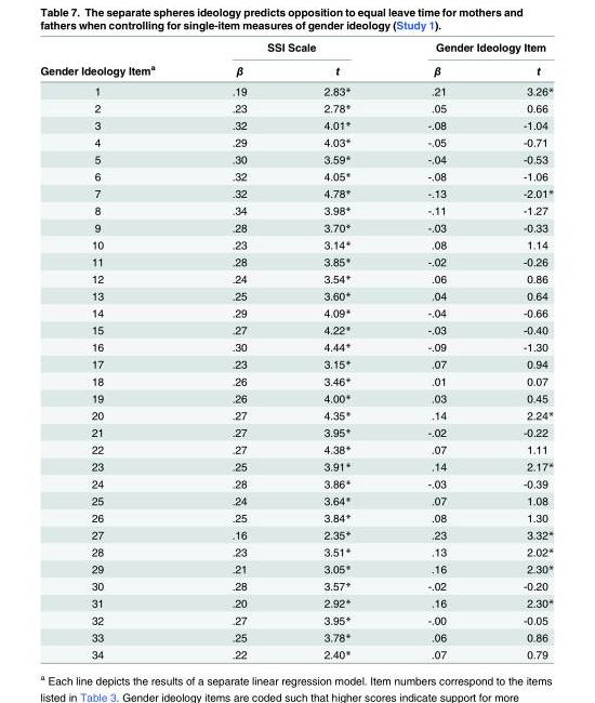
<table><thead><tr><td rowspan="2">Gender Ideology Item<sup>a</sup></td><td colspan="2">SSI Scale</td><td colspan="2">Gender Ideology Item</td></tr><tr><td>β</td><td>t</td><td>β</td><td>t</td></tr></thead><tbody><tr><td>1</td><td>.19</td><td>2.83*</td><td>.21</td><td>3.26*</td></tr><tr><td>2</td><td>.23</td><td>2.78*</td><td>.05</td><td>0.66</td></tr><tr><td>3</td><td>.32</td><td>4.01*</td><td>-.08</td><td>-1.04</td></tr><tr><td>4</td><td>.29</td><td>4.03*</td><td>-.05</td><td>-0.71</td></tr><tr><td>5</td><td>.30</td><td>3.59*</td><td>-.04</td><td>-0.53</td></tr><tr><td>6</td><td>.32</td><td>4.05*</td><td>-.08</td><td>-1.06</td></tr><tr><td>7</td><td>.32</td><td>4.78*</td><td>-.13</td><td>-2.01*</td></tr><tr><td>8</td><td>.34</td><td>3.98*</td><td>-.11</td><td>-1.27</td></tr><tr><td>9</td><td>.28</td><td>3.70*</td><td>-.03</td><td>-0.33</td></tr><tr><td>10</td><td>.23</td><td>3.14*</td><td>.08</td><td>1.14</td></tr><tr><td>11</td><td>.28</td><td>3.85*</td><td>-.02</td><td>-0.26</td></tr><tr><td>12</td><td>.24</td><td>3.54*</td><td>.06</td><td>0.86</td></tr><tr><td>13</td><td>.25</td><td>3.60*</td><td>.04</td><td>0.64</td></tr><tr><td>14</td><td>.29</td><td>4.09*</td><td>-.04</td><td>-0.66</td></tr><tr><td>15</td><td>.27</td><td>4.22*</td><td>-.03</td><td>-0.40</td></tr><tr><td>16</td><td>.30</td><td>4.44*</td><td>-.09</td><td>-1.30</td></tr><tr><td>17</td><td>.23</td><td>3.15*</td><td>.07</td><td>0.94</td></tr><tr><td>18</td><td>.26</td><td>3.46*</td><td>.01</td><td>0.07</td></tr><tr><td>19</td><td>.26</td><td>4.00*</td><td>.03</td><td>0.45</td></tr><tr><td>20</td><td>.27</td><td>4.35*</td><td>.14</td><td>2.24*</td></tr><tr><td>21</td><td>.27</td><td>3.95*</td><td>-.02</td><td>-0.22</td></tr><tr><td>22</td><td>.27</td><td>4.38*</td><td>.07</td><td>1.11</td></tr><tr><td>23</td><td>.25</td><td>3.91*</td><td>.14</td><td>2.17*</td></tr><tr><td>24</td><td>.28</td><td>3.86*</td><td>-.03</td><td>-0.39</td></tr><tr><td>25</td><td>.24</td><td>3.64*</td><td>.07</td><td>1.08</td></tr><tr><td>26</td><td>.25</td><td>3.84*</td><td>.08</td><td>1.30</td></tr><tr><td>27</td><td>.16</td><td>2.35*</td><td>.23</td><td>3.32*</td></tr><tr><td>28</td><td>.23</td><td>3.51*</td><td>.13</td><td>2.02*</td></tr><tr><td>29</td><td>.21</td><td>3.05*</td><td>.16</td><td>2.30*</td></tr><tr><td>30</td><td>.28</td><td>3.57*</td><td>-.02</td><td>-0.20</td></tr><tr><td>31</td><td>.20</td><td>2.92*</td><td>.16</td><td>2.30*</td></tr><tr><td>32</td><td>.27</td><td>3.95*</td><td>-.00</td><td>-0.05</td></tr><tr><td>33</td><td>.25</td><td>3.78*</td><td>.06</td><td>0.86</td></tr><tr><td>34</td><td>.22</td><td>2.40*</td><td>.07</td><td>0.79</td></tr></tbody></table>